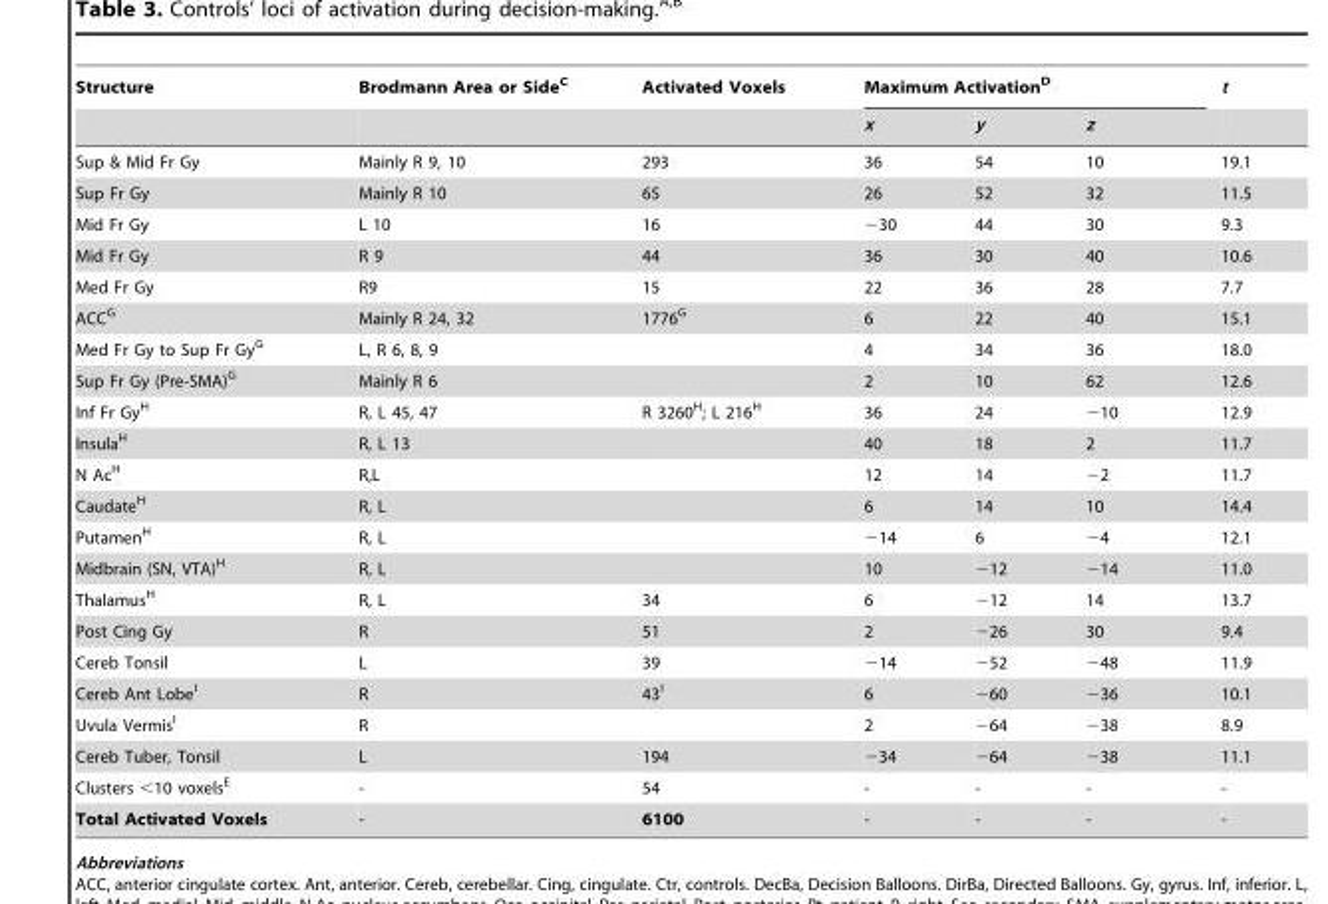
<table><thead><tr><td rowspan="2">Structure</td><td rowspan="2">Brodmann Area or Side<sup>C</sup></td><td rowspan="2">Activated Voxels</td><td colspan="3">Maximum Activation<sup>D</sup></td><td rowspan="2">t</td></tr><tr><td>x</td><td>y</td><td>z</td></tr></thead><tbody><tr><td>Sup &amp; Mid Fr Gy</td><td>Mainly R 9, 10</td><td>293</td><td>36</td><td>54</td><td>10</td><td>19.1</td></tr><tr><td>Sup Fr Gy</td><td>Mainly R 10</td><td>65</td><td>26</td><td>52</td><td>32</td><td>11.5</td></tr><tr><td>Mid Fr Gy</td><td>L 10</td><td>16</td><td>−30</td><td>44</td><td>30</td><td>9.3</td></tr><tr><td>Mid Fr Gy</td><td>R 9</td><td>44</td><td>36</td><td>30</td><td>40</td><td>10.6</td></tr><tr><td>Med Fr Gy</td><td>R9</td><td>15</td><td>22</td><td>36</td><td>28</td><td>7.7</td></tr><tr><td>ACC<sup>G</sup></td><td>Mainly R 24, 32</td><td>1776<sup>G</sup></td><td>6</td><td>22</td><td>40</td><td>15.1</td></tr><tr><td>Med Fr Gy to Sup Fr Gy<sup>G</sup></td><td>L, R 6, 8, 9</td><td></td><td>4</td><td>34</td><td>36</td><td>18.0</td></tr><tr><td>Sup Fr Gy (Pre-SMA)<sup>G</sup></td><td>Mainly R 6</td><td></td><td>2</td><td>10</td><td>62</td><td>12.6</td></tr><tr><td>Inf Fr Gy<sup>H</sup></td><td>R, L 45, 47</td><td>R 3260<sup>H</sup>; L 216<sup>H</sup></td><td>36</td><td>24</td><td>−10</td><td>12.9</td></tr><tr><td>Insula<sup>H</sup></td><td>R, L 13</td><td></td><td>40</td><td>18</td><td>2</td><td>11.7</td></tr><tr><td>N Ac<sup>H</sup></td><td>R,L</td><td></td><td>12</td><td>14</td><td>−2</td><td>11.7</td></tr><tr><td>Caudate<sup>H</sup></td><td>R, L</td><td></td><td>6</td><td>14</td><td>10</td><td>14.4</td></tr><tr><td>Putamen<sup>H</sup></td><td>R, L</td><td></td><td>−14</td><td>6</td><td>−4</td><td>12.1</td></tr><tr><td>Midbrain (SN, VTA)<sup>H</sup></td><td>R, L</td><td></td><td>10</td><td>−12</td><td>−14</td><td>11.0</td></tr><tr><td>Thalamus<sup>H</sup></td><td>R, L</td><td>34</td><td>6</td><td>−12</td><td>14</td><td>13.7</td></tr><tr><td>Post Cing Gy</td><td>R</td><td>51</td><td>2</td><td>−26</td><td>30</td><td>9.4</td></tr><tr><td>Cereb Tonsil</td><td>L</td><td>39</td><td>−14</td><td>−52</td><td>−48</td><td>11.9</td></tr><tr><td>Cereb Ant Lobe<sup>I</sup></td><td>R</td><td>43<sup>I</sup></td><td>6</td><td>−60</td><td>−36</td><td>10.1</td></tr><tr><td>Uvula Vermis<sup>I</sup></td><td>R</td><td></td><td>2</td><td>−64</td><td>−38</td><td>8.9</td></tr><tr><td>Cereb Tuber, Tonsil</td><td>L</td><td>194</td><td>−34</td><td>−64</td><td>−38</td><td>11.1</td></tr><tr><td>Clusters &lt;10 voxels<sup>E</sup></td><td>-</td><td>54</td><td>-</td><td>-</td><td>-</td><td>-</td></tr><tr><td>Total Activated Voxels</td><td>-</td><td>6100</td><td>-</td><td>-</td><td>-</td><td>-</td></tr></tbody></table>